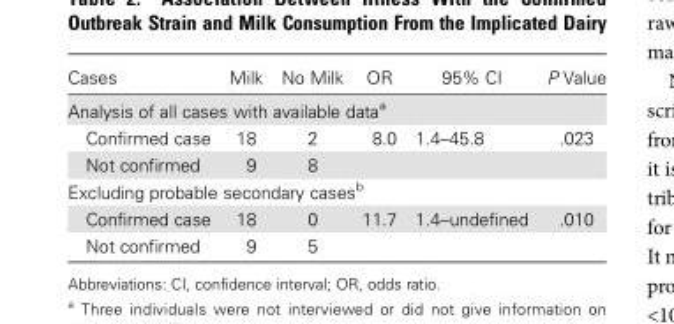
<table><thead><tr><td>Cases</td><td>Milk</td><td>No Milk</td><td>OR</td><td>95% CI</td><td>P Value</td></tr></thead><tbody><tr><td colspan="6">Analysis of all cases with available data<sup>a</sup></td></tr><tr><td>Confirmed case</td><td>18</td><td>2</td><td>8.0</td><td>1.4–45.8</td><td>.023</td></tr><tr><td>Not confirmed</td><td>9</td><td>8</td><td></td><td></td><td></td></tr><tr><td colspan="6">Excluding probable secondary cases<sup>b</sup></td></tr><tr><td>Confirmed case</td><td>18</td><td>0</td><td>11.7</td><td>1.4–undefined</td><td>.010</td></tr><tr><td>Not confirmed</td><td>9</td><td>5</td><td></td><td></td><td></td></tr></tbody></table>